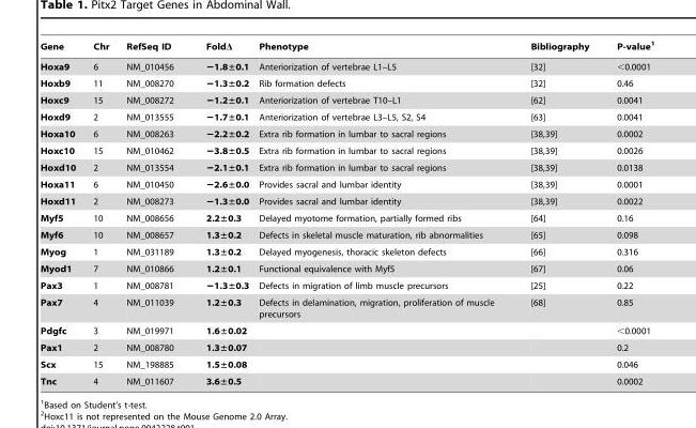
<table><thead><tr><td>Gene</td><td>Chr</td><td>RefSeq ID</td><td>FoldΔ</td><td>Phenotype</td><td>Bibliography</td><td>P-value<sup>1</sup></td></tr></thead><tbody><tr><td>Hoxa9</td><td>6</td><td>NM_010456</td><td>−1.8±0.1</td><td>Anteriorization of vertebrae L1–L5</td><td>[32]</td><td>&lt;0.0001</td></tr><tr><td>Hoxb9</td><td>11</td><td>NM_008270</td><td>−1.3±0.2</td><td>Rib formation defects</td><td>[32]</td><td>0.46</td></tr><tr><td>Hoxc9</td><td>15</td><td>NM_008272</td><td>−1.2±0.1</td><td>Anteriorization of vertebrae T10–L1</td><td>[62]</td><td>0.0041</td></tr><tr><td>Hoxd9</td><td>2</td><td>NM_013555</td><td>−1.7±0.1</td><td>Anteriorization of vertebrae L3–L5, S2, S4</td><td>[63]</td><td>0.0041</td></tr><tr><td>Hoxa10</td><td>6</td><td>NM_008263</td><td>−2.2±0.2</td><td>Extra rib formation in lumbar to sacral regions</td><td>[38,39]</td><td>0.0002</td></tr><tr><td>Hoxc10</td><td>15</td><td>NM_010462</td><td>−3.8±0.5</td><td>Extra rib formation in lumbar to sacral regions</td><td>[38,39]</td><td>0.0026</td></tr><tr><td>Hoxd10</td><td>2</td><td>NM_013554</td><td>−2.1±0.1</td><td>Extra rib formation in lumbar to sacral regions</td><td>[38,39]</td><td>0.0138</td></tr><tr><td>Hoxa11</td><td>6</td><td>NM_010450</td><td>−2.6±0.0</td><td>Provides sacral and lumbar identity</td><td>[38,39]</td><td>0.0001</td></tr><tr><td>Hoxd11</td><td>2</td><td>NM_008273</td><td>−1.3±0.0</td><td>Provides sacral and lumbar identity</td><td>[38,39]</td><td>0.0022</td></tr><tr><td>Myf5</td><td>10</td><td>NM_008656</td><td>2.2±0.3</td><td>Delayed myotome formation, partially formed ribs</td><td>[64]</td><td>0.16</td></tr><tr><td>Myf6</td><td>10</td><td>NM_008657</td><td>1.3±0.2</td><td>Defects in skeletal muscle maturation, rib abnormalities</td><td>[65]</td><td>0.098</td></tr><tr><td>Myog</td><td>1</td><td>NM_031189</td><td>1.3±0.2</td><td>Delayed myogenesis, thoracic skeleton defects</td><td>[66]</td><td>0.316</td></tr><tr><td>Myod1</td><td>7</td><td>NM_010866</td><td>1.2±0.1</td><td>Functional equivalence with Myf5</td><td>[67]</td><td>0.06</td></tr><tr><td>Pax3</td><td>1</td><td>NM_008781</td><td>−1.3±0.3</td><td>Defects in migration of limb muscle precursors</td><td>[25]</td><td>0.22</td></tr><tr><td>Pax7</td><td>4</td><td>NM_011039</td><td>1.2±0.3</td><td>Defects in delamination, migration, proliferation of muscle precursors</td><td>[68]</td><td>0.85</td></tr><tr><td>Pdgfc</td><td>3</td><td>NM_019971</td><td>1.6±0.02</td><td></td><td></td><td>&lt;0.0001</td></tr><tr><td>Pax1</td><td>2</td><td>NM_008780</td><td>1.3±0.07</td><td></td><td></td><td>0.2</td></tr><tr><td>Scx</td><td>15</td><td>NM_198885</td><td>1.5±0.08</td><td></td><td></td><td>0.046</td></tr><tr><td>Tnc</td><td>4</td><td>NM_011607</td><td>3.6±0.5</td><td></td><td></td><td>0.0002</td></tr></tbody></table>